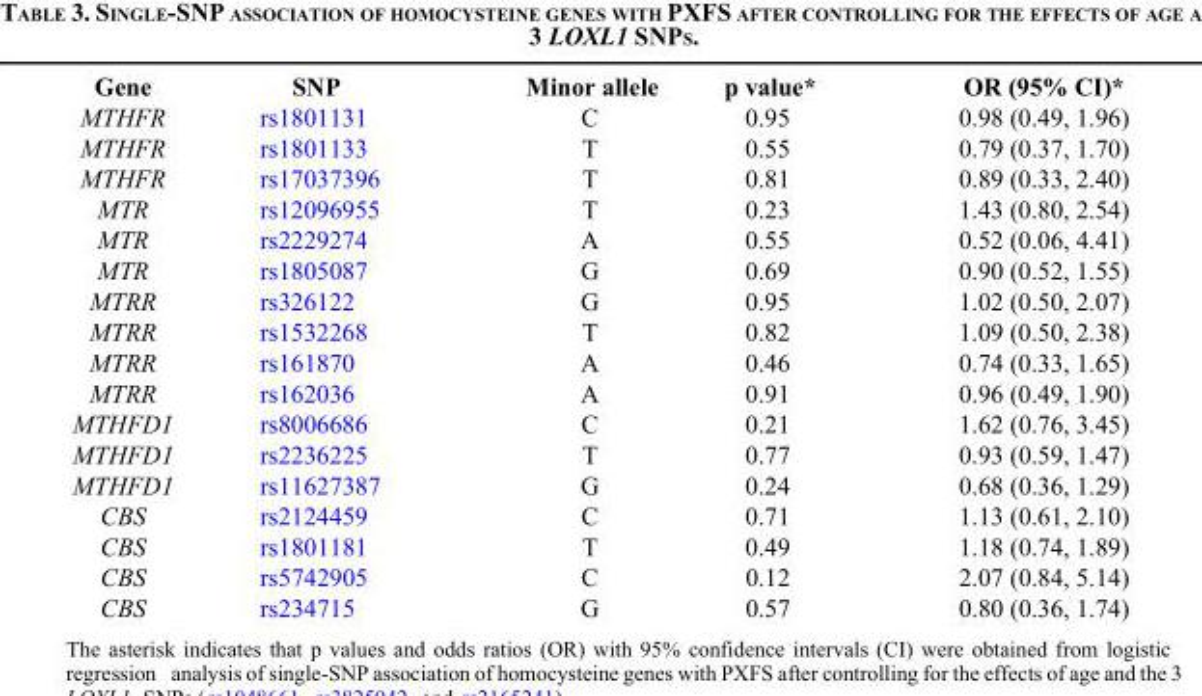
<table><thead><tr><td>Gene</td><td>SNP</td><td>Minor allele</td><td>p value*</td><td>OR (95% CI)*</td></tr></thead><tbody><tr><td>MTHFR</td><td>rs1801131</td><td>C</td><td>0.95</td><td>0.98 (0.49, 1.96)</td></tr><tr><td>MTHFR</td><td>rs1801133</td><td>T</td><td>0.55</td><td>0.79 (0.37, 1.70)</td></tr><tr><td>MTHFR</td><td>rs17037396</td><td>T</td><td>0.81</td><td>0.89 (0.33, 2.40)</td></tr><tr><td>MTR</td><td>rs12096955</td><td>T</td><td>0.23</td><td>1.43 (0.80, 2.54)</td></tr><tr><td>MTR</td><td>rs2229274</td><td>A</td><td>0.55</td><td>0.52 (0.06, 4.41)</td></tr><tr><td>MTR</td><td>rs1805087</td><td>G</td><td>0.69</td><td>0.90 (0.52, 1.55)</td></tr><tr><td>MTRR</td><td>rs326122</td><td>G</td><td>0.95</td><td>1.02 (0.50, 2.07)</td></tr><tr><td>MTRR</td><td>rs1532268</td><td>T</td><td>0.82</td><td>1.09 (0.50, 2.38)</td></tr><tr><td>MTRR</td><td>rs161870</td><td>A</td><td>0.46</td><td>0.74 (0.33, 1.65)</td></tr><tr><td>MTRR</td><td>rs162036</td><td>A</td><td>0.91</td><td>0.96 (0.49, 1.90)</td></tr><tr><td>MTHFD1</td><td>rs8006686</td><td>C</td><td>0.21</td><td>1.62 (0.76, 3.45)</td></tr><tr><td>MTHFD1</td><td>rs2236225</td><td>T</td><td>0.77</td><td>0.93 (0.59, 1.47)</td></tr><tr><td>MTHFD1</td><td>rs11627387</td><td>G</td><td>0.24</td><td>0.68 (0.36, 1.29)</td></tr><tr><td>CBS</td><td>rs2124459</td><td>C</td><td>0.71</td><td>1.13 (0.61, 2.10)</td></tr><tr><td>CBS</td><td>rs1801181</td><td>T</td><td>0.49</td><td>1.18 (0.74, 1.89)</td></tr><tr><td>CBS</td><td>rs5742905</td><td>C</td><td>0.12</td><td>2.07 (0.84, 5.14)</td></tr><tr><td>CBS</td><td>rs234715</td><td>G</td><td>0.57</td><td>0.80 (0.36, 1.74)</td></tr></tbody></table>